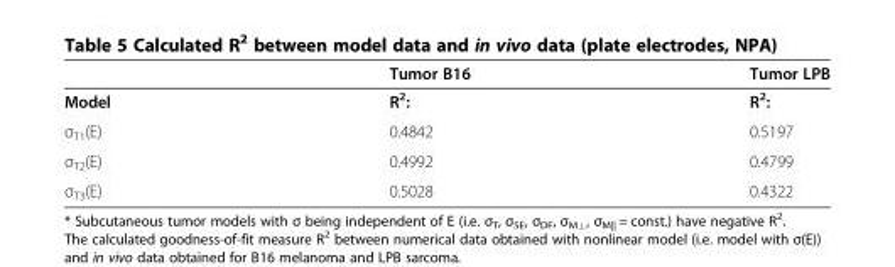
<table><thead><tr><td></td><td>Tumor B16</td><td>Tumor LPB</td></tr></thead><tbody><tr><td>Model</td><td>R<sup>2</sup>:</td><td>R<sup>2</sup>:</td></tr><tr><td>σ<sub>T1</sub>(E)</td><td>0.4842</td><td>0.5197</td></tr><tr><td>σ<sub>T2</sub>(E)</td><td>0.4992</td><td>0.4799</td></tr><tr><td>σ<sub>T3</sub>(E)</td><td>0.5028</td><td>0.4322</td></tr></tbody></table>